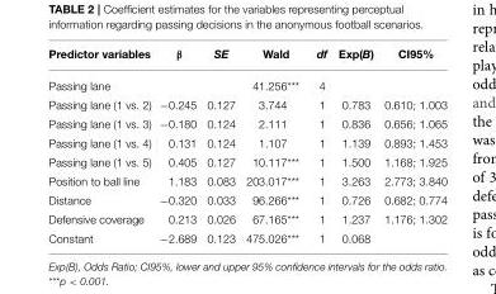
<table><thead><tr><td>Predictor variables</td><td>β</td><td>SE</td><td>Wald</td><td>df</td><td>Exp(B)</td><td>CI95%</td></tr></thead><tbody><tr><td>Passing lane</td><td></td><td></td><td>41.256***</td><td>4</td><td></td><td></td></tr><tr><td>Passing lane (1 vs. 2)</td><td>−0.245</td><td>0.127</td><td>3.744</td><td>1</td><td>0.783</td><td>0.610; 1.003</td></tr><tr><td>Passing lane (1 vs. 3)</td><td>−0.180</td><td>0.124</td><td>2.111</td><td>1</td><td>0.836</td><td>0.656; 1.065</td></tr><tr><td>Passing lane (1 vs. 4)</td><td>0.131</td><td>0.124</td><td>1.107</td><td>1</td><td>1.139</td><td>0.893; 1.453</td></tr><tr><td>Passing lane (1 vs. 5)</td><td>0.405</td><td>0.127</td><td>10.117***</td><td>1</td><td>1.500</td><td>1.168; 1.925</td></tr><tr><td>Position to ball line</td><td>1.183</td><td>0.083</td><td>203.017***</td><td>1</td><td>3.263</td><td>2.773; 3.840</td></tr><tr><td>Distance</td><td>−0.320</td><td>0.033</td><td>96.266***</td><td>1</td><td>0.726</td><td>0.682; 0.774</td></tr><tr><td>Defensive coverage</td><td>0.213</td><td>0.026</td><td>67.165***</td><td>1</td><td>1.237</td><td>1.176; 1.302</td></tr><tr><td>Constant</td><td>−2.689</td><td>0.123</td><td>475.026***</td><td>1</td><td>0.068</td><td></td></tr></tbody></table>